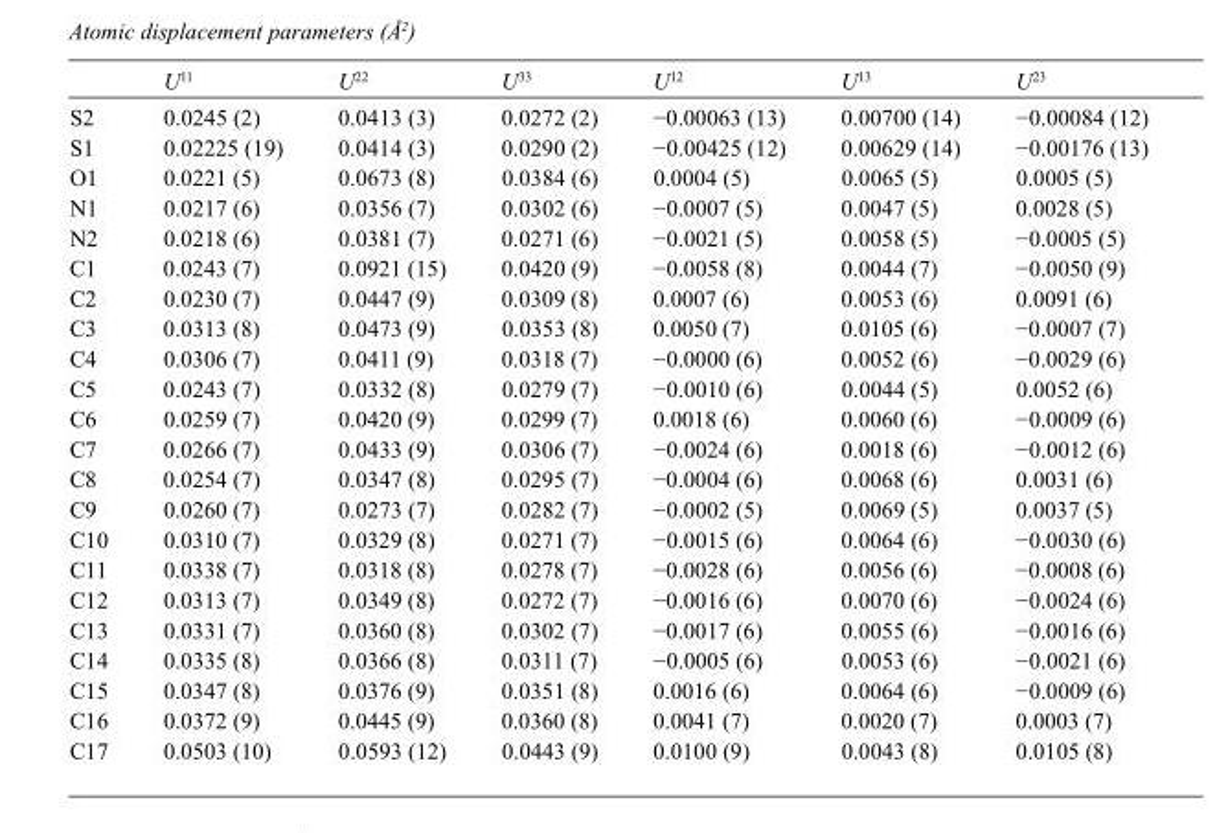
<table><thead><tr><td></td><td>U<sup>11</sup></td><td>U<sup>22</sup></td><td>U<sup>33</sup></td><td>U<sup>12</sup></td><td>U<sup>13</sup></td><td>U<sup>23</sup></td></tr></thead><tbody><tr><td>S2</td><td>0.0245 (2)</td><td>0.0413 (3)</td><td>0.0272 (2)</td><td>−0.00063 (13)</td><td>0.00700 (14)</td><td>−0.00084 (12)</td></tr><tr><td>S1</td><td>0.02225 (19)</td><td>0.0414 (3)</td><td>0.0290 (2)</td><td>−0.00425 (12)</td><td>0.00629 (14)</td><td>−0.00176 (13)</td></tr><tr><td>O1</td><td>0.0221 (5)</td><td>0.0673 (8)</td><td>0.0384 (6)</td><td>0.0004 (5)</td><td>0.0065 (5)</td><td>0.0005 (5)</td></tr><tr><td>N1</td><td>0.0217 (6)</td><td>0.0356 (7)</td><td>0.0302 (6)</td><td>−0.0007 (5)</td><td>0.0047 (5)</td><td>0.0028 (5)</td></tr><tr><td>N2</td><td>0.0218 (6)</td><td>0.0381 (7)</td><td>0.0271 (6)</td><td>−0.0021 (5)</td><td>0.0058 (5)</td><td>−0.0005 (5)</td></tr><tr><td>C1</td><td>0.0243 (7)</td><td>0.0921 (15)</td><td>0.0420 (9)</td><td>−0.0058 (8)</td><td>0.0044 (7)</td><td>−0.0050 (9)</td></tr><tr><td>C2</td><td>0.0230 (7)</td><td>0.0447 (9)</td><td>0.0309 (8)</td><td>0.0007 (6)</td><td>0.0053 (6)</td><td>0.0091 (6)</td></tr><tr><td>C3</td><td>0.0313 (8)</td><td>0.0473 (9)</td><td>0.0353 (8)</td><td>0.0050 (7)</td><td>0.0105 (6)</td><td>−0.0007 (7)</td></tr><tr><td>C4</td><td>0.0306 (7)</td><td>0.0411 (9)</td><td>0.0318 (7)</td><td>−0.0000 (6)</td><td>0.0052 (6)</td><td>−0.0029 (6)</td></tr><tr><td>C5</td><td>0.0243 (7)</td><td>0.0332 (8)</td><td>0.0279 (7)</td><td>−0.0010 (6)</td><td>0.0044 (5)</td><td>0.0052 (6)</td></tr><tr><td>C6</td><td>0.0259 (7)</td><td>0.0420 (9)</td><td>0.0299 (7)</td><td>0.0018 (6)</td><td>0.0060 (6)</td><td>−0.0009 (6)</td></tr><tr><td>C7</td><td>0.0266 (7)</td><td>0.0433 (9)</td><td>0.0306 (7)</td><td>−0.0024 (6)</td><td>0.0018 (6)</td><td>−0.0012 (6)</td></tr><tr><td>C8</td><td>0.0254 (7)</td><td>0.0347 (8)</td><td>0.0295 (7)</td><td>−0.0004 (6)</td><td>0.0068 (6)</td><td>0.0031 (6)</td></tr><tr><td>C9</td><td>0.0260 (7)</td><td>0.0273 (7)</td><td>0.0282 (7)</td><td>−0.0002 (5)</td><td>0.0069 (5)</td><td>0.0037 (5)</td></tr><tr><td>C10</td><td>0.0310 (7)</td><td>0.0329 (8)</td><td>0.0271 (7)</td><td>−0.0015 (6)</td><td>0.0064 (6)</td><td>−0.0030 (6)</td></tr><tr><td>C11</td><td>0.0338 (7)</td><td>0.0318 (8)</td><td>0.0278 (7)</td><td>−0.0028 (6)</td><td>0.0056 (6)</td><td>−0.0008 (6)</td></tr><tr><td>C12</td><td>0.0313 (7)</td><td>0.0349 (8)</td><td>0.0272 (7)</td><td>−0.0016 (6)</td><td>0.0070 (6)</td><td>−0.0024 (6)</td></tr><tr><td>C13</td><td>0.0331 (7)</td><td>0.0360 (8)</td><td>0.0302 (7)</td><td>−0.0017 (6)</td><td>0.0055 (6)</td><td>−0.0016 (6)</td></tr><tr><td>C14</td><td>0.0335 (8)</td><td>0.0366 (8)</td><td>0.0311 (7)</td><td>−0.0005 (6)</td><td>0.0053 (6)</td><td>−0.0021 (6)</td></tr><tr><td>C15</td><td>0.0347 (8)</td><td>0.0376 (9)</td><td>0.0351 (8)</td><td>0.0016 (6)</td><td>0.0064 (6)</td><td>−0.0009 (6)</td></tr><tr><td>C16</td><td>0.0372 (9)</td><td>0.0445 (9)</td><td>0.0360 (8)</td><td>0.0041 (7)</td><td>0.0020 (7)</td><td>0.0003 (7)</td></tr><tr><td>C17</td><td>0.0503 (10)</td><td>0.0593 (12)</td><td>0.0443 (9)</td><td>0.0100 (9)</td><td>0.0043 (8)</td><td>0.0105 (8)</td></tr></tbody></table>